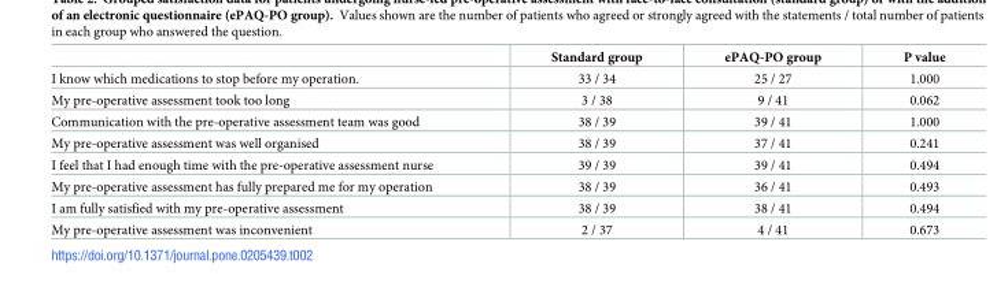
<table><thead><tr><td></td><td>Standard group</td><td>ePAQ-PO group</td><td>P value</td></tr></thead><tbody><tr><td>I know which medications to stop before my operation.</td><td>33 / 34</td><td>25 / 27</td><td>1.000</td></tr><tr><td>My pre-operative assessment took too long</td><td>3 / 38</td><td>9 / 41</td><td>0.062</td></tr><tr><td>Communication with the pre-operative assessment team was good</td><td>38 / 39</td><td>39 / 41</td><td>1.000</td></tr><tr><td>My pre-operative assessment was well organised</td><td>38 / 39</td><td>37 / 41</td><td>0.241</td></tr><tr><td>I feel that I had enough time with the pre-operative assessment nurse</td><td>39 / 39</td><td>39 / 41</td><td>0.494</td></tr><tr><td>My pre-operative assessment has fully prepared me for my operation</td><td>38 / 39</td><td>36 / 41</td><td>0.493</td></tr><tr><td>I am fully satisfied with my pre-operative assessment</td><td>38 / 39</td><td>38 / 41</td><td>0.494</td></tr><tr><td>My pre-operative assessment was inconvenient</td><td>2 / 37</td><td>4 / 41</td><td>0.673</td></tr></tbody></table>